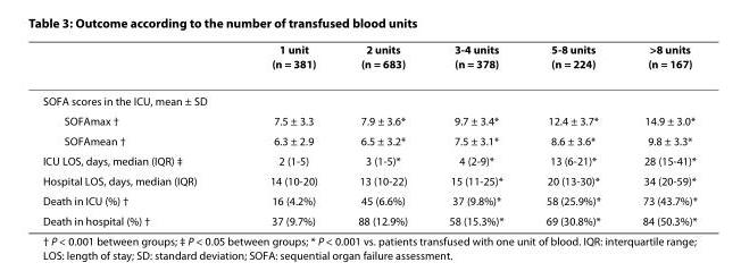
<table><thead><tr><td></td><td>1 unit (n = 381)</td><td>2 units (n = 683)</td><td>3-4 units (n = 378)</td><td>5-8 units (n = 224)</td><td>&gt;8 units (n = 167)</td></tr></thead><tbody><tr><td colspan="6">SOFA scores in the ICU, mean ± SD</td></tr><tr><td>SOFAmax †</td><td>7.5 ± 3.3</td><td>7.9 ± 3.6*</td><td>9.7 ± 3.4*</td><td>12.4 ± 3.7*</td><td>14.9 ± 3.0*</td></tr><tr><td>SOFAmean †</td><td>6.3 ± 2.9</td><td>6.5 ± 3.2*</td><td>7.5 ± 3.1*</td><td>8.6 ± 3.6*</td><td>9.8 ± 3.3*</td></tr><tr><td>ICU LOS, days, median (IQR) ‡</td><td>2 (1-5)</td><td>3 (1-5)*</td><td>4 (2-9)*</td><td>13 (6-21)*</td><td>28 (15-41)*</td></tr><tr><td>Hospital LOS, days, median (IQR)</td><td>14 (10-20)</td><td>13 (10-22)</td><td>15 (11-25)*</td><td>20 (13-30)*</td><td>34 (20-59)*</td></tr><tr><td>Death in ICU (%) †</td><td>16 (4.2%)</td><td>45 (6.6%)</td><td>37 (9.8%)*</td><td>58 (25.9%)*</td><td>73 (43.7%)*</td></tr><tr><td>Death in hospital (%) †</td><td>37 (9.7%)</td><td>88 (12.9%)</td><td>58 (15.3%)*</td><td>69 (30.8%)*</td><td>84 (50.3%)*</td></tr></tbody></table>